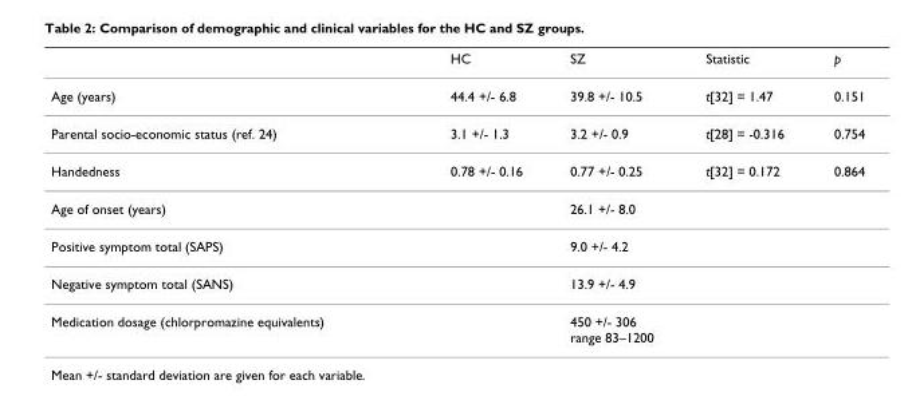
<table><thead><tr><td></td><td>HC</td><td>SZ</td><td>Statistic</td><td>p</td></tr></thead><tbody><tr><td>Age (years)</td><td>44.4 +/- 6.8</td><td>39.8 +/- 10.5</td><td>t[32] = 1.47</td><td>0.151</td></tr><tr><td>Parental socio-economic status (ref. 24)</td><td>3.1 +/- 1.3</td><td>3.2 +/- 0.9</td><td>t[28] = -0.316</td><td>0.754</td></tr><tr><td>Handedness</td><td>0.78 +/- 0.16</td><td>0.77 +/- 0.25</td><td>t[32] = 0.172</td><td>0.864</td></tr><tr><td>Age of onset (years)</td><td></td><td>26.1 +/- 8.0</td><td></td><td></td></tr><tr><td>Positive symptom total (SAPS)</td><td></td><td>9.0 +/- 4.2</td><td></td><td></td></tr><tr><td>Negative symptom total (SANS)</td><td></td><td>13.9 +/- 4.9</td><td></td><td></td></tr><tr><td>Medication dosage (chlorpromazine equivalents)</td><td></td><td>450 +/- 306 range 83–1200</td><td></td><td></td></tr></tbody></table>